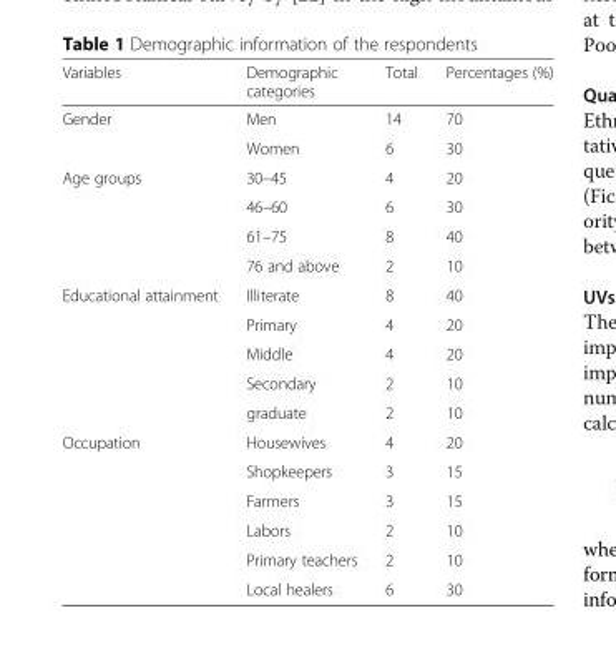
<table><thead><tr><td>Variables</td><td>Demographic categories</td><td>Total</td><td>Percentages (%)</td></tr></thead><tbody><tr><td rowspan="2">Gender</td><td>Men</td><td>14</td><td>70</td></tr><tr><td>Women</td><td>6</td><td>30</td></tr><tr><td rowspan="4">Age groups</td><td>30–45</td><td>4</td><td>20</td></tr><tr><td>46–60</td><td>6</td><td>30</td></tr><tr><td>61–75</td><td>8</td><td>40</td></tr><tr><td>76 and above</td><td>2</td><td>10</td></tr><tr><td rowspan="5">Educational attainment</td><td>Illiterate</td><td>8</td><td>40</td></tr><tr><td>Primary</td><td>4</td><td>20</td></tr><tr><td>Middle</td><td>4</td><td>20</td></tr><tr><td>Secondary</td><td>2</td><td>10</td></tr><tr><td>graduate</td><td>2</td><td>10</td></tr><tr><td rowspan="6">Occupation</td><td>Housewives</td><td>4</td><td>20</td></tr><tr><td>Shopkeepers</td><td>3</td><td>15</td></tr><tr><td>Farmers</td><td>3</td><td>15</td></tr><tr><td>Labors</td><td>2</td><td>10</td></tr><tr><td>Primary teachers</td><td>2</td><td>10</td></tr><tr><td>Local healers</td><td>6</td><td>30</td></tr></tbody></table>